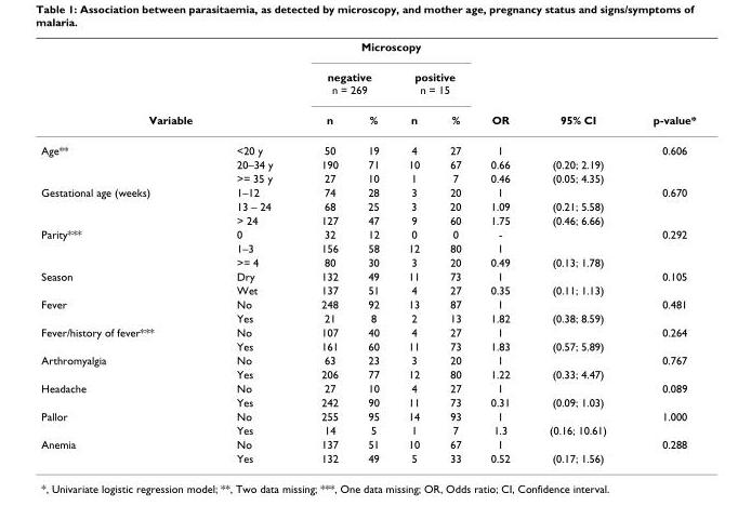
<table><thead><tr><td rowspan="2"></td><td rowspan="2"></td><td colspan="4">Microscopy</td><td rowspan="3">OR</td><td rowspan="3">95% CI</td><td rowspan="3">p-value*</td></tr><tr><td colspan="2">negative n = 269</td><td colspan="2">positive n = 15</td></tr><tr><td colspan="2">Variable</td><td>n</td><td>%</td><td>n</td><td>%</td></tr></thead><tbody><tr><td rowspan="3">Age**</td><td>&lt;20 y</td><td>50</td><td>19</td><td>4</td><td>27</td><td>1</td><td></td><td>0.606</td></tr><tr><td>20–34 y</td><td>190</td><td>71</td><td>10</td><td>67</td><td>0.66</td><td>(0.20; 2.19)</td><td></td></tr><tr><td>&gt;= 35 y</td><td>27</td><td>10</td><td>1</td><td>7</td><td>0.46</td><td>(0.05; 4.35)</td><td></td></tr><tr><td rowspan="3">Gestational age (weeks)</td><td>1–12</td><td>74</td><td>28</td><td>3</td><td>20</td><td>1</td><td></td><td>0.670</td></tr><tr><td>13 – 24</td><td>68</td><td>25</td><td>3</td><td>20</td><td>1.09</td><td>(0.21; 5.58)</td><td></td></tr><tr><td>&gt; 24</td><td>127</td><td>47</td><td>9</td><td>60</td><td>1.75</td><td>(0.46; 6.66)</td><td></td></tr><tr><td rowspan="3">Parity***</td><td>0</td><td>32</td><td>12</td><td>0</td><td>0</td><td>-</td><td></td><td>0.292</td></tr><tr><td>1–3</td><td>156</td><td>58</td><td>12</td><td>80</td><td>1</td><td></td><td></td></tr><tr><td>&gt;= 4</td><td>80</td><td>30</td><td>3</td><td>20</td><td>0.49</td><td>(0.13; 1.78)</td><td></td></tr><tr><td rowspan="2">Season</td><td>Dry</td><td>132</td><td>49</td><td>11</td><td>73</td><td>1</td><td></td><td>0.105</td></tr><tr><td>Wet</td><td>137</td><td>51</td><td>4</td><td>27</td><td>0.35</td><td>(0.11; 1.13)</td><td></td></tr><tr><td rowspan="2">Fever</td><td>No</td><td>248</td><td>92</td><td>13</td><td>87</td><td>1</td><td></td><td>0.481</td></tr><tr><td>Yes</td><td>21</td><td>8</td><td>2</td><td>13</td><td>1.82</td><td>(0.38; 8.59)</td><td></td></tr><tr><td rowspan="2">Fever/history of fever***</td><td>No</td><td>107</td><td>40</td><td>4</td><td>27</td><td>1</td><td></td><td>0.264</td></tr><tr><td>Yes</td><td>161</td><td>60</td><td>11</td><td>73</td><td>1.83</td><td>(0.57; 5.89)</td><td></td></tr><tr><td rowspan="2">Arthromyalgia</td><td>No</td><td>63</td><td>23</td><td>3</td><td>20</td><td>1</td><td></td><td>0.767</td></tr><tr><td>Yes</td><td>206</td><td>77</td><td>12</td><td>80</td><td>1.22</td><td>(0.33; 4.47)</td><td></td></tr><tr><td rowspan="2">Headache</td><td>No</td><td>27</td><td>10</td><td>4</td><td>27</td><td>1</td><td></td><td>0.089</td></tr><tr><td>Yes</td><td>242</td><td>90</td><td>11</td><td>73</td><td>0.31</td><td>(0.09; 1.03)</td><td></td></tr><tr><td rowspan="2">Pallor</td><td>No</td><td>255</td><td>95</td><td>14</td><td>93</td><td>1</td><td></td><td>1.000</td></tr><tr><td>Yes</td><td>14</td><td>5</td><td>1</td><td>7</td><td>1.3</td><td>(0.16; 10.61)</td><td></td></tr><tr><td rowspan="2">Anemia</td><td>No</td><td>137</td><td>51</td><td>10</td><td>67</td><td>1</td><td></td><td>0.288</td></tr><tr><td>Yes</td><td>132</td><td>49</td><td>5</td><td>33</td><td>0.52</td><td>(0.17; 1.56)</td><td></td></tr></tbody></table>